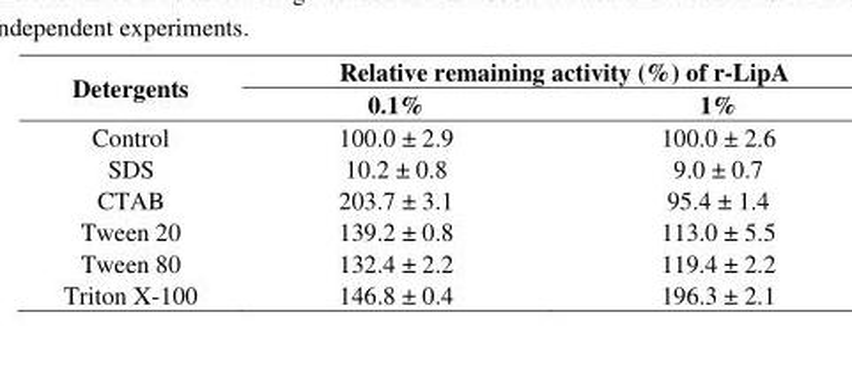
<table><thead><tr><td rowspan="2">Detergents</td><td colspan="2">Relative remaining activity (%) of r-LipA</td></tr><tr><td>0.1%</td><td>1%</td></tr></thead><tbody><tr><td>Control</td><td>100.0 ± 2.9</td><td>100.0 ± 2.6</td></tr><tr><td>SDS</td><td>10.2 ± 0.8</td><td>9.0 ± 0.7</td></tr><tr><td>CTAB</td><td>203.7 ± 3.1</td><td>95.4 ± 1.4</td></tr><tr><td>Tween 20</td><td>139.2 ± 0.8</td><td>113.0 ± 5.5</td></tr><tr><td>Tween 80</td><td>132.4 ± 2.2</td><td>119.4 ± 2.2</td></tr><tr><td>Triton X-100</td><td>146.8 ± 0.4</td><td>196.3 ± 2.1</td></tr></tbody></table>